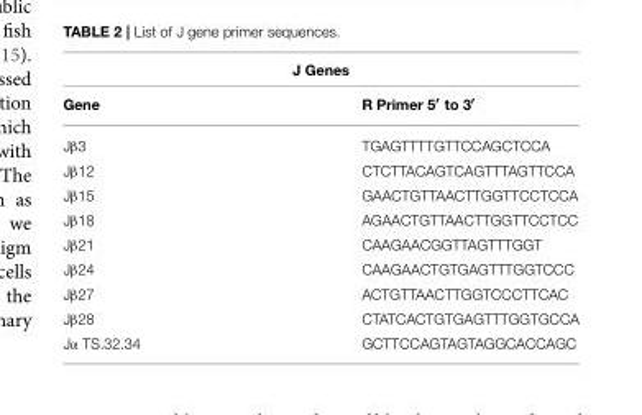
<table><thead><tr><td colspan="2">J Genes</td></tr><tr><td>Gene</td><td>R Primer 5′ to 3′</td></tr></thead><tbody><tr><td>Jβ3</td><td>TGAGTTTTGTTCCAGCTCCA</td></tr><tr><td>Jβ12</td><td>CTCTTACAGTCAGTTTAGTTCCA</td></tr><tr><td>Jβ15</td><td>GAACTGTTAACTTGGTTCCTCCA</td></tr><tr><td>Jβ18</td><td>AGAACTGTTAACTTGGTTCCTCC</td></tr><tr><td>Jβ21</td><td>CAAGAACGGTTAGTTTGGT</td></tr><tr><td>Jβ24</td><td>CAAGAACTGTGAGTTTGGTCCC</td></tr><tr><td>Jβ27</td><td>ACTGTTAACTTGGTCCCTTCAC</td></tr><tr><td>Jβ28</td><td>CTATCACTGTGAGTTTGGTGCCA</td></tr><tr><td>Jα TS.32.34</td><td>GCTTCCAGTAGTAGGCACCAGC</td></tr></tbody></table>